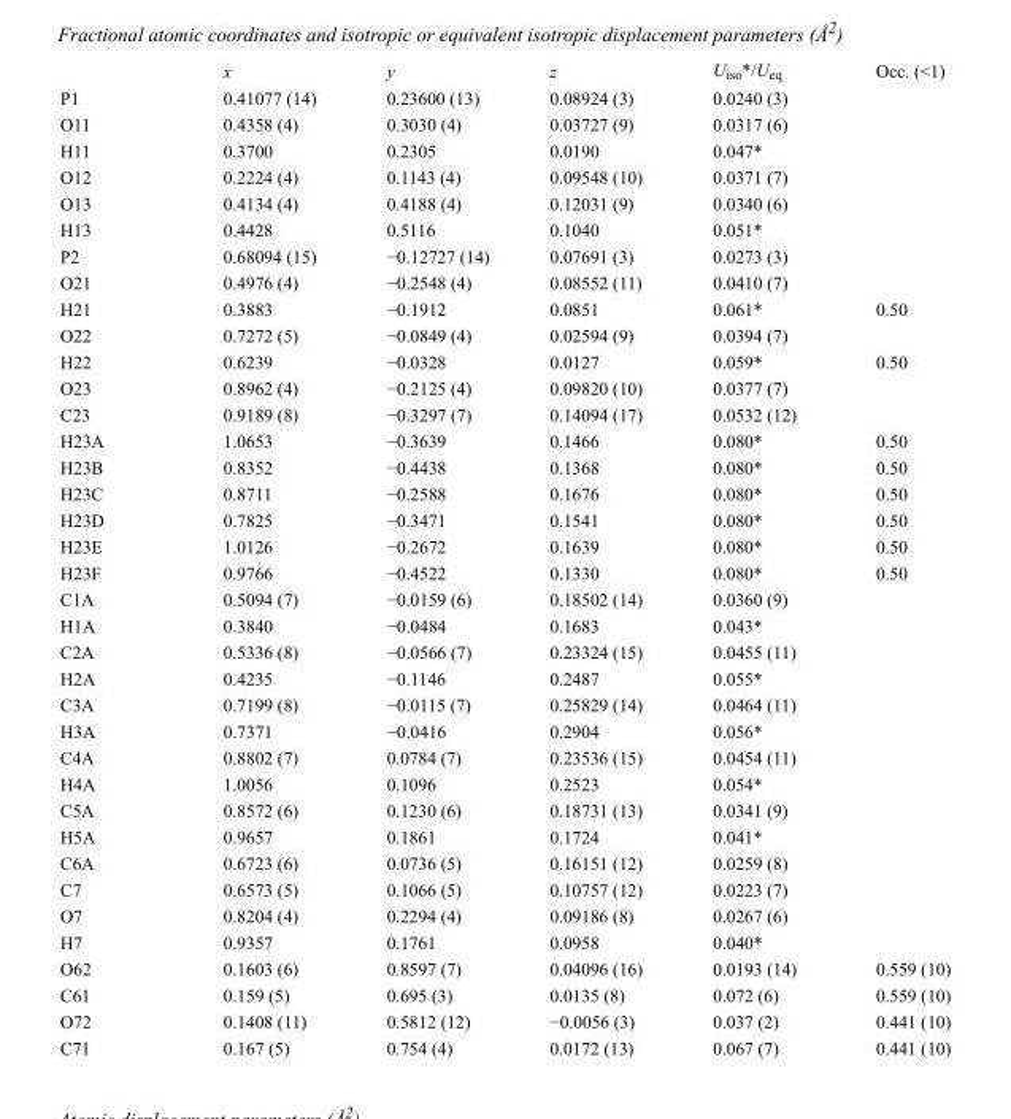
<table><thead><tr><td></td><td>x</td><td>y</td><td>z</td><td>U<sub>iso</sub>*/U<sub>eq</sub></td><td>Occ. (&lt;1)</td></tr></thead><tbody><tr><td>P1</td><td>0.41077 (14)</td><td>0.23600 (13)</td><td>0.08924 (3)</td><td>0.0240 (3)</td><td></td></tr><tr><td>O11</td><td>0.4358 (4)</td><td>0.3030 (4)</td><td>0.03727 (9)</td><td>0.0317 (6)</td><td></td></tr><tr><td>H11</td><td>0.3700</td><td>0.2305</td><td>0.0190</td><td>0.047*</td><td></td></tr><tr><td>O12</td><td>0.2224 (4)</td><td>0.1143 (4)</td><td>0.09548 (10)</td><td>0.0371 (7)</td><td></td></tr><tr><td>O13</td><td>0.4134 (4)</td><td>0.4188 (4)</td><td>0.12031 (9)</td><td>0.0340 (6)</td><td></td></tr><tr><td>H13</td><td>0.4428</td><td>0.5116</td><td>0.1040</td><td>0.051*</td><td></td></tr><tr><td>P2</td><td>0.68094 (15)</td><td>−0.12727 (14)</td><td>0.07691 (3)</td><td>0.0273 (3)</td><td></td></tr><tr><td>O21</td><td>0.4976 (4)</td><td>−0.2548 (4)</td><td>0.08552 (11)</td><td>0.0410 (7)</td><td></td></tr><tr><td>H21</td><td>0.3883</td><td>−0.1912</td><td>0.0851</td><td>0.061*</td><td>0.50</td></tr><tr><td>O22</td><td>0.7272 (5)</td><td>−0.0849 (4)</td><td>0.02594 (9)</td><td>0.0394 (7)</td><td></td></tr><tr><td>H22</td><td>0.6239</td><td>−0.0328</td><td>0.0127</td><td>0.059*</td><td>0.50</td></tr><tr><td>O23</td><td>0.8962 (4)</td><td>−0.2125 (4)</td><td>0.09820 (10)</td><td>0.0377 (7)</td><td></td></tr><tr><td>C23</td><td>0.9189 (8)</td><td>−0.3297 (7)</td><td>0.14094 (17)</td><td>0.0532 (12)</td><td></td></tr><tr><td>H23A</td><td>1.0653</td><td>−0.3639</td><td>0.1466</td><td>0.080*</td><td>0.50</td></tr><tr><td>H23B</td><td>0.8352</td><td>−0.4438</td><td>0.1368</td><td>0.080*</td><td>0.50</td></tr><tr><td>H23C</td><td>0.8711</td><td>−0.2588</td><td>0.1676</td><td>0.080*</td><td>0.50</td></tr><tr><td>H23D</td><td>0.7825</td><td>−0.3471</td><td>0.1541</td><td>0.080*</td><td>0.50</td></tr><tr><td>H23E</td><td>1.0126</td><td>−0.2672</td><td>0.1639</td><td>0.080*</td><td>0.50</td></tr><tr><td>H23F</td><td>0.9766</td><td>−0.4522</td><td>0.1330</td><td>0.080*</td><td>0.50</td></tr><tr><td>C1A</td><td>0.5094 (7)</td><td>−0.0159 (6)</td><td>0.18502 (14)</td><td>0.0360 (9)</td><td></td></tr><tr><td>H1A</td><td>0.3840</td><td>−0.0484</td><td>0.1683</td><td>0.043*</td><td></td></tr><tr><td>C2A</td><td>0.5336 (8)</td><td>−0.0566 (7)</td><td>0.23324 (15)</td><td>0.0455 (11)</td><td></td></tr><tr><td>H2A</td><td>0.4235</td><td>−0.1146</td><td>0.2487</td><td>0.055*</td><td></td></tr><tr><td>C3A</td><td>0.7199 (8)</td><td>−0.0115 (7)</td><td>0.25829 (14)</td><td>0.0464 (11)</td><td></td></tr><tr><td>H3A</td><td>0.7371</td><td>−0.0416</td><td>0.2904</td><td>0.056*</td><td></td></tr><tr><td>C4A</td><td>0.8802 (7)</td><td>0.0784 (7)</td><td>0.23536 (15)</td><td>0.0454 (11)</td><td></td></tr><tr><td>H4A</td><td>1.0056</td><td>0.1096</td><td>0.2523</td><td>0.054*</td><td></td></tr><tr><td>C5A</td><td>0.8572 (6)</td><td>0.1230 (6)</td><td>0.18731 (13)</td><td>0.0341 (9)</td><td></td></tr><tr><td>H5A</td><td>0.9657</td><td>0.1861</td><td>0.1724</td><td>0.041*</td><td></td></tr><tr><td>C6A</td><td>0.6723 (6)</td><td>0.0736 (5)</td><td>0.16151 (12)</td><td>0.0259 (8)</td><td></td></tr><tr><td>C7</td><td>0.6573 (5)</td><td>0.1066 (5)</td><td>0.10757 (12)</td><td>0.0223 (7)</td><td></td></tr><tr><td>O7</td><td>0.8204 (4)</td><td>0.2294 (4)</td><td>0.09186 (8)</td><td>0.0267 (6)</td><td></td></tr><tr><td>H7</td><td>0.9357</td><td>0.1761</td><td>0.0958</td><td>0.040*</td><td></td></tr><tr><td>O62</td><td>0.1603 (6)</td><td>0.8597 (7)</td><td>0.04096 (16)</td><td>0.0193 (14)</td><td>0.559 (10)</td></tr><tr><td>C61</td><td>0.159 (5)</td><td>0.695 (3)</td><td>0.0135 (8)</td><td>0.072 (6)</td><td>0.559 (10)</td></tr><tr><td>O72</td><td>0.1408 (11)</td><td>0.5812 (12)</td><td>−0.0056 (3)</td><td>0.037 (2)</td><td>0.441 (10)</td></tr><tr><td>C71</td><td>0.167 (5)</td><td>0.754 (4)</td><td>0.0172 (13)</td><td>0.067 (7)</td><td>0.441 (10)</td></tr></tbody></table>